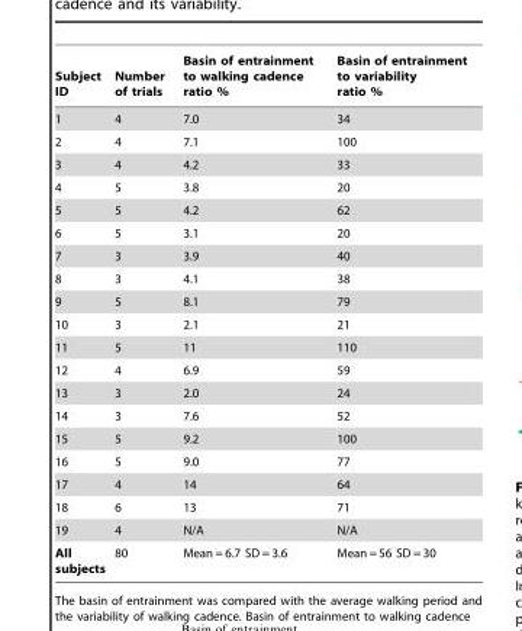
<table><thead><tr><td>Subject ID</td><td>Number of trials</td><td>Basin of entrainment to walking cadence ratio %</td><td>Basin of entrainment to variability ratio %</td></tr></thead><tbody><tr><td>1</td><td>4</td><td>7.0</td><td>34</td></tr><tr><td>2</td><td>4</td><td>7.1</td><td>100</td></tr><tr><td>3</td><td>4</td><td>4.2</td><td>33</td></tr><tr><td>4</td><td>5</td><td>3.8</td><td>20</td></tr><tr><td>5</td><td>5</td><td>4.2</td><td>62</td></tr><tr><td>6</td><td>5</td><td>3.1</td><td>20</td></tr><tr><td>7</td><td>3</td><td>3.9</td><td>40</td></tr><tr><td>8</td><td>3</td><td>4.1</td><td>38</td></tr><tr><td>9</td><td>5</td><td>8.1</td><td>79</td></tr><tr><td>10</td><td>3</td><td>2.1</td><td>21</td></tr><tr><td>11</td><td>5</td><td>11</td><td>110</td></tr><tr><td>12</td><td>4</td><td>6.9</td><td>59</td></tr><tr><td>13</td><td>3</td><td>2.0</td><td>24</td></tr><tr><td>14</td><td>3</td><td>7.6</td><td>52</td></tr><tr><td>15</td><td>5</td><td>9.2</td><td>100</td></tr><tr><td>16</td><td>5</td><td>9.0</td><td>77</td></tr><tr><td>17</td><td>4</td><td>14</td><td>64</td></tr><tr><td>18</td><td>6</td><td>13</td><td>71</td></tr><tr><td>19</td><td>4</td><td>N/A</td><td>N/A</td></tr><tr><td>All subjects</td><td>80</td><td>Mean = 6.7 SD = 3.6</td><td>Mean = 56 SD = 30</td></tr></tbody></table>